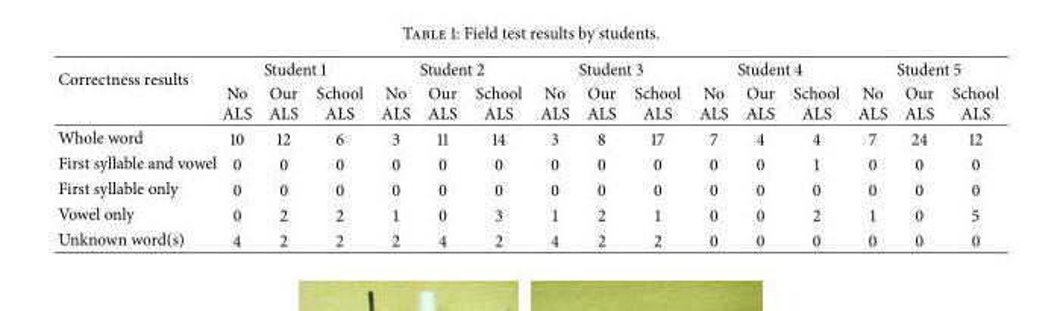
<table><thead><tr><td rowspan="2">Correctness results</td><td colspan="3">Student 1</td><td colspan="3">Student 2</td><td colspan="3">Student 3</td><td colspan="3">Student 4</td><td colspan="3">Student 5</td></tr><tr><td>No ALS</td><td>Our ALS</td><td>School ALS</td><td>No ALS</td><td>Our ALS</td><td>School ALS</td><td>No ALS</td><td>Our ALS</td><td>School ALS</td><td>No ALS</td><td>Our ALS</td><td>School ALS</td><td>No ALS</td><td>Our ALS</td><td>School ALS</td></tr></thead><tbody><tr><td>Whole word</td><td>10</td><td>12</td><td>6</td><td>3</td><td>11</td><td>14</td><td>3</td><td>8</td><td>17</td><td>7</td><td>4</td><td>4</td><td>7</td><td>24</td><td>12</td></tr><tr><td>First syllable and vowel</td><td>0</td><td>0</td><td>0</td><td>0</td><td>0</td><td>0</td><td>0</td><td>0</td><td>0</td><td>0</td><td>0</td><td>1</td><td>0</td><td>0</td><td>0</td></tr><tr><td>First syllable only</td><td>0</td><td>0</td><td>0</td><td>0</td><td>0</td><td>0</td><td>0</td><td>0</td><td>0</td><td>0</td><td>0</td><td>0</td><td>0</td><td>0</td><td>0</td></tr><tr><td>Vowel only</td><td>0</td><td>2</td><td>2</td><td>1</td><td>0</td><td>3</td><td>1</td><td>2</td><td>1</td><td>0</td><td>0</td><td>2</td><td>1</td><td>0</td><td>5</td></tr><tr><td>Unknown word(s)</td><td>4</td><td>2</td><td>2</td><td>2</td><td>4</td><td>2</td><td>4</td><td>2</td><td>2</td><td>0</td><td>0</td><td>0</td><td>0</td><td>0</td><td>0</td></tr></tbody></table>